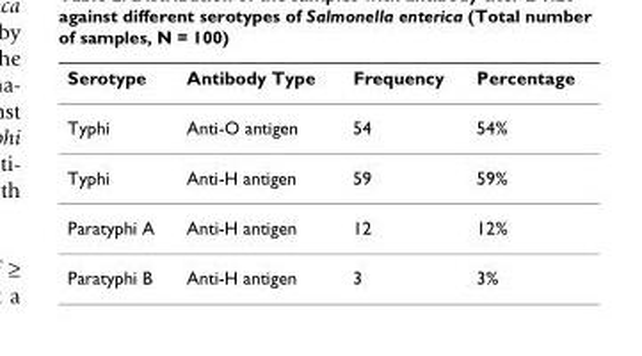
<table><thead><tr><td>Serotype</td><td>Antibody Type</td><td>Frequency</td><td>Percentage</td></tr></thead><tbody><tr><td>Typhi</td><td>Anti-O antigen</td><td>54</td><td>54%</td></tr><tr><td>Typhi</td><td>Anti-H antigen</td><td>59</td><td>59%</td></tr><tr><td>Paratyphi A</td><td>Anti-H antigen</td><td>12</td><td>12%</td></tr><tr><td>Paratyphi B</td><td>Anti-H antigen</td><td>3</td><td>3%</td></tr></tbody></table>